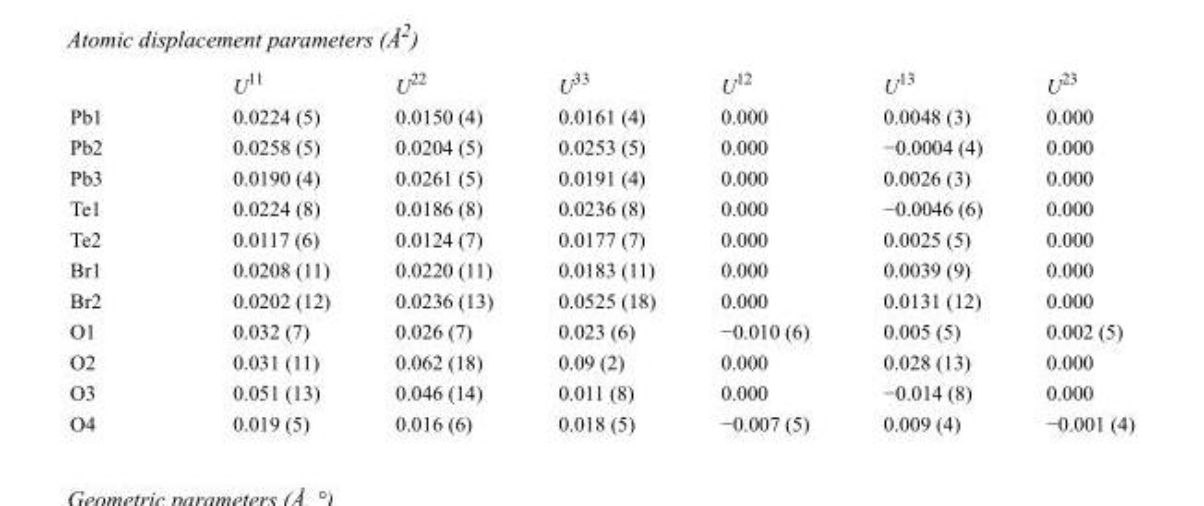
<table><thead><tr><td></td><td>U<sup>11</sup></td><td>U<sup>22</sup></td><td>U<sup>33</sup></td><td>U<sup>12</sup></td><td>U<sup>13</sup></td><td>U<sup>23</sup></td></tr></thead><tbody><tr><td>Pb1</td><td>0.0224 (5)</td><td>0.0150 (4)</td><td>0.0161 (4)</td><td>0.000</td><td>0.0048 (3)</td><td>0.000</td></tr><tr><td>Pb2</td><td>0.0258 (5)</td><td>0.0204 (5)</td><td>0.0253 (5)</td><td>0.000</td><td>−0.0004 (4)</td><td>0.000</td></tr><tr><td>Pb3</td><td>0.0190 (4)</td><td>0.0261 (5)</td><td>0.0191 (4)</td><td>0.000</td><td>0.0026 (3)</td><td>0.000</td></tr><tr><td>Te1</td><td>0.0224 (8)</td><td>0.0186 (8)</td><td>0.0236 (8)</td><td>0.000</td><td>−0.0046 (6)</td><td>0.000</td></tr><tr><td>Te2</td><td>0.0117 (6)</td><td>0.0124 (7)</td><td>0.0177 (7)</td><td>0.000</td><td>0.0025 (5)</td><td>0.000</td></tr><tr><td>Br1</td><td>0.0208 (11)</td><td>0.0220 (11)</td><td>0.0183 (11)</td><td>0.000</td><td>0.0039 (9)</td><td>0.000</td></tr><tr><td>Br2</td><td>0.0202 (12)</td><td>0.0236 (13)</td><td>0.0525 (18)</td><td>0.000</td><td>0.0131 (12)</td><td>0.000</td></tr><tr><td>O1</td><td>0.032 (7)</td><td>0.026 (7)</td><td>0.023 (6)</td><td>−0.010 (6)</td><td>0.005 (5)</td><td>0.002 (5)</td></tr><tr><td>O2</td><td>0.031 (11)</td><td>0.062 (18)</td><td>0.09 (2)</td><td>0.000</td><td>0.028 (13)</td><td>0.000</td></tr><tr><td>O3</td><td>0.051 (13)</td><td>0.046 (14)</td><td>0.011 (8)</td><td>0.000</td><td>−0.014 (8)</td><td>0.000</td></tr><tr><td>O4</td><td>0.019 (5)</td><td>0.016 (6)</td><td>0.018 (5)</td><td>−0.007 (5)</td><td>0.009 (4)</td><td>−0.001 (4)</td></tr></tbody></table>